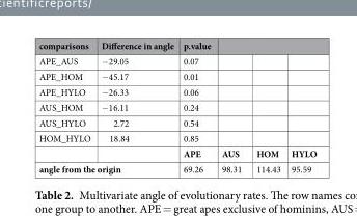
<table><thead><tr><td>comparisons</td><td>Difference in angle</td><td>p.value</td><td></td><td></td><td></td></tr></thead><tbody><tr><td>APE_AUS</td><td>−29.05</td><td>0.07</td><td></td><td></td><td></td></tr><tr><td>APE_HOM</td><td>−45.17</td><td>0.01</td><td></td><td></td><td></td></tr><tr><td>APE_HYLO</td><td>−26.33</td><td>0.06</td><td></td><td></td><td></td></tr><tr><td>AUS_HOM</td><td>−16.11</td><td>0.24</td><td></td><td></td><td></td></tr><tr><td>AUS_HYLO</td><td>2.72</td><td>0.54</td><td></td><td></td><td></td></tr><tr><td rowspan="2">HOM_HYLO</td><td>18.84</td><td>0.85</td><td></td><td></td><td></td></tr><tr><td></td><td>APE</td><td>AUS</td><td>HOM</td><td>HYLO</td></tr><tr><td colspan="2">angle from the origin</td><td>69.26</td><td>98.31</td><td>114.43</td><td>95.59</td></tr></tbody></table>